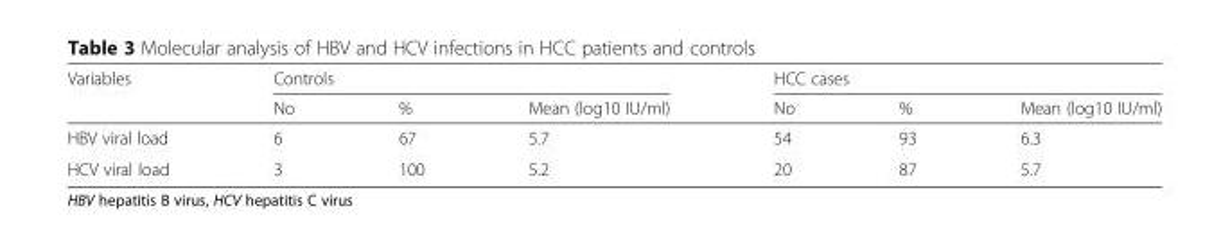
<table><thead><tr><td rowspan="2">Variables</td><td colspan="3">Controls</td><td colspan="3">HCC cases</td></tr><tr><td>No</td><td>%</td><td>Mean (log10 IU/ml)</td><td>No</td><td>%</td><td>Mean (log10 IU/ml)</td></tr></thead><tbody><tr><td>HBV viral load</td><td>6</td><td>67</td><td>5.7</td><td>54</td><td>93</td><td>6.3</td></tr><tr><td>HCV viral load</td><td>3</td><td>100</td><td>5.2</td><td>20</td><td>87</td><td>5.7</td></tr></tbody></table>